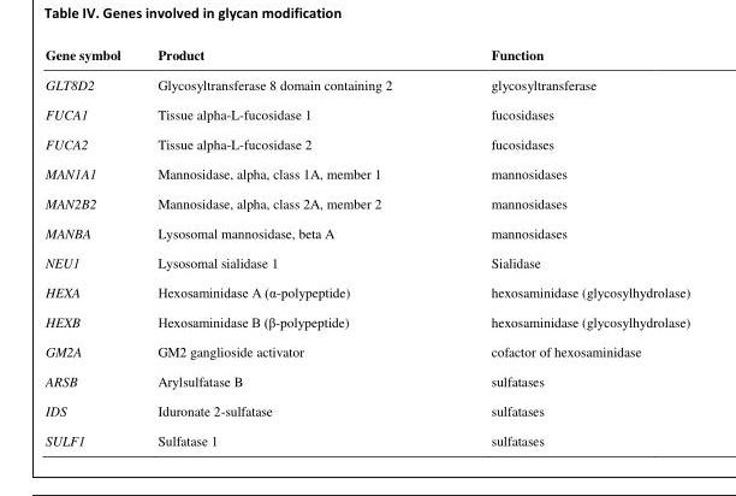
<table><thead><tr><td rowspan="14">Gene symbol GLT8D2 FUCA1 FUCA2 MAN1A1 MAN2B2 MANBA NEU1 HEXA HEXB GM2A ARSB IDS SULF1</td><td rowspan="14">Product Glycosyltransferase 8 domain containing 2 Tissue alpha-L-fucosidase 1 Tissue alpha-L-fucosidase 2 Mannosidase, alpha, class 1A, member 1 Mannosidase, alpha, class 2A, member 2 Lysosomal mannosidase, beta A Lysosomal sialidase 1 Hexosaminidase A (α-polypeptide) Hexosaminidase B (β-polypeptide) GM2 ganglioside activator Arylsulfatase B Iduronate 2-sulfatase Sulfatase 1</td><td rowspan="14">Function glycosyltransferase fucosidases fucosidases mannosidases mannosidases mannosidases Sialidase hexosaminidase (glycosylhydrolase) hexosaminidase (glycosylhydrolase) cofactor of hexosaminidase sulfatases sulfatases sulfatases</td></tr><tr></tr><tr></tr><tr></tr><tr></tr><tr></tr><tr></tr><tr></tr><tr></tr><tr></tr><tr></tr><tr></tr><tr></tr><tr></tr></thead><tbody></tbody></table>